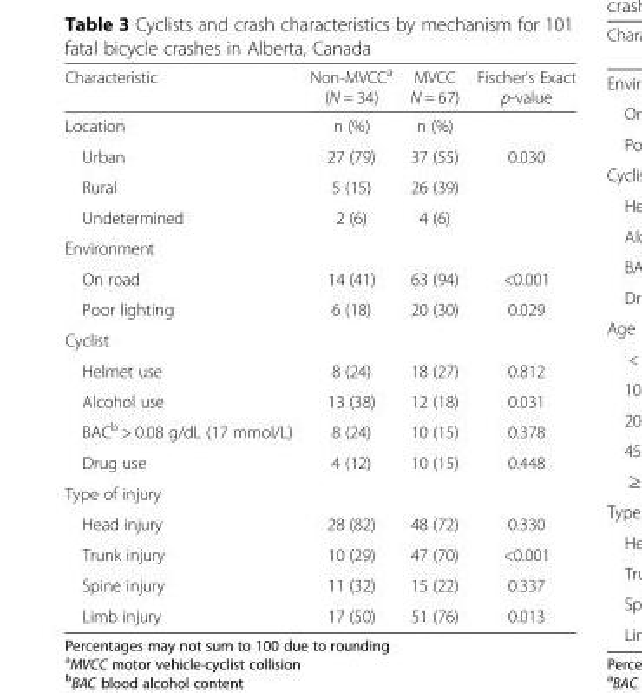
<table><thead><tr><td>Characteristic</td><td>Non-MVCC<sup>a</sup> (N = 34)</td><td>MVCC N = 67)</td><td>Fischer’s Exact p-value</td></tr></thead><tbody><tr><td>Location</td><td>n (%)</td><td>n (%)</td><td></td></tr><tr><td>Urban</td><td>27 (79)</td><td>37 (55)</td><td>0.030</td></tr><tr><td>Rural</td><td>5 (15)</td><td>26 (39)</td><td></td></tr><tr><td>Undetermined</td><td>2 (6)</td><td>4 (6)</td><td></td></tr><tr><td colspan="4">Environment</td></tr><tr><td>On road</td><td>14 (41)</td><td>63 (94)</td><td>&lt;0.001</td></tr><tr><td>Poor lighting</td><td>6 (18)</td><td>20 (30)</td><td>0.029</td></tr><tr><td colspan="4">Cyclist</td></tr><tr><td>Helmet use</td><td>8 (24)</td><td>18 (27)</td><td>0.812</td></tr><tr><td>Alcohol use</td><td>13 (38)</td><td>12 (18)</td><td>0.031</td></tr><tr><td>BAC<sup>b</sup> &gt; 0.08 g/dL (17 mmol/L)</td><td>8 (24)</td><td>10 (15)</td><td>0.378</td></tr><tr><td>Drug use</td><td>4 (12)</td><td>10 (15)</td><td>0.448</td></tr><tr><td colspan="4">Type of injury</td></tr><tr><td>Head injury</td><td>28 (82)</td><td>48 (72)</td><td>0.330</td></tr><tr><td>Trunk injury</td><td>10 (29)</td><td>47 (70)</td><td>&lt;0.001</td></tr><tr><td>Spine injury</td><td>11 (32)</td><td>15 (22)</td><td>0.337</td></tr><tr><td>Limb injury</td><td>17 (50)</td><td>51 (76)</td><td>0.013</td></tr></tbody></table>